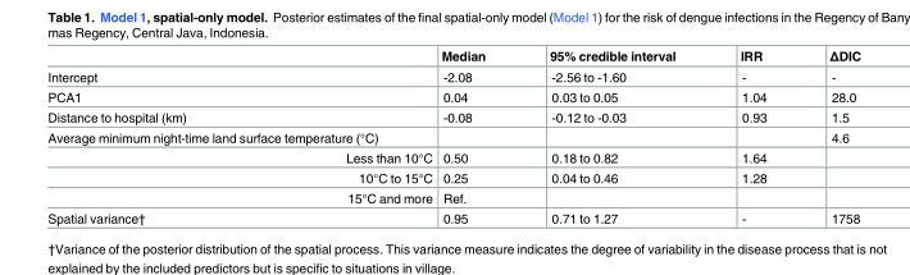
<table><thead><tr><td></td><td>Median</td><td>95% credible interval</td><td>IRR</td><td>ΔDIC</td></tr></thead><tbody><tr><td>Intercept</td><td>-2.08</td><td>-2.56 to -1.60</td><td>-</td><td>-</td></tr><tr><td>PCA1</td><td>0.04</td><td>0.03 to 0.05</td><td>1.04</td><td>28.0</td></tr><tr><td>Distance to hospital (km)</td><td>-0.08</td><td>-0.12 to -0.03</td><td>0.93</td><td>1.5</td></tr><tr><td>Average minimum night-time land surface temperature (°C)</td><td></td><td></td><td></td><td>4.6</td></tr><tr><td>Less than 10°C</td><td>0.50</td><td>0.18 to 0.82</td><td>1.64</td><td></td></tr><tr><td>10°C to 15°C</td><td>0.25</td><td>0.04 to 0.46</td><td>1.28</td><td></td></tr><tr><td>15°C and more</td><td>Ref.</td><td></td><td></td><td></td></tr><tr><td>Spatial variance†</td><td>0.95</td><td>0.71 to 1.27</td><td>-</td><td>1758</td></tr></tbody></table>